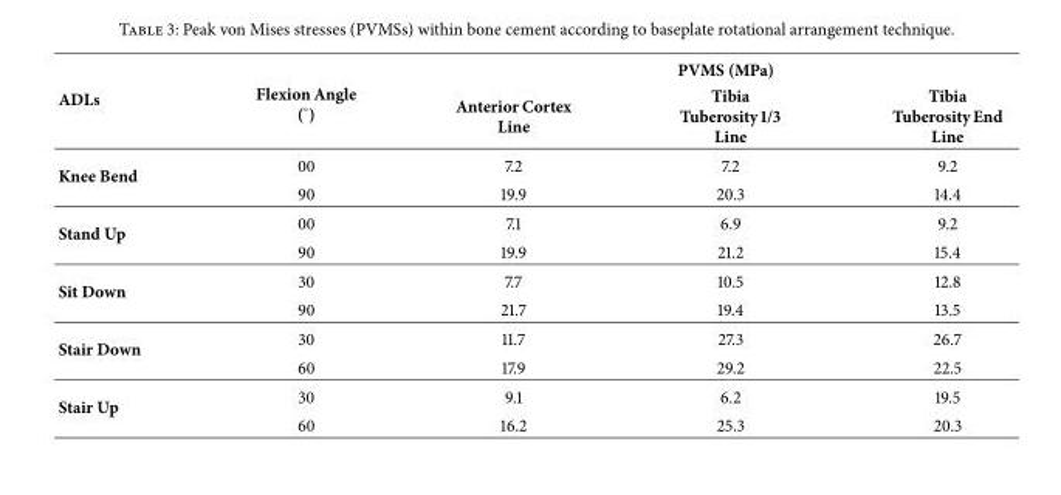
<table><thead><tr><td rowspan="2">ADLs</td><td rowspan="2">Flexion Angle (∘)</td><td colspan="3">PVMS (MPa)</td></tr><tr><td>Anterior Cortex Line</td><td>Tibia Tuberosity 1/3 Line</td><td>Tibia Tuberosity End Line</td></tr></thead><tbody><tr><td rowspan="2">Knee Bend</td><td>00</td><td>7.2</td><td>7.2</td><td>9.2</td></tr><tr><td>90</td><td>19.9</td><td>20.3</td><td>14.4</td></tr><tr><td rowspan="2">Stand Up</td><td>00</td><td>7.1</td><td>6.9</td><td>9.2</td></tr><tr><td>90</td><td>19.9</td><td>21.2</td><td>15.4</td></tr><tr><td rowspan="2">Sit Down</td><td>30</td><td>7.7</td><td>10.5</td><td>12.8</td></tr><tr><td>90</td><td>21.7</td><td>19.4</td><td>13.5</td></tr><tr><td rowspan="2">Stair Down</td><td>30</td><td>11.7</td><td>27.3</td><td>26.7</td></tr><tr><td>60</td><td>17.9</td><td>29.2</td><td>22.5</td></tr><tr><td rowspan="2">Stair Up</td><td>30</td><td>9.1</td><td>6.2</td><td>19.5</td></tr><tr><td>60</td><td>16.2</td><td>25.3</td><td>20.3</td></tr></tbody></table>